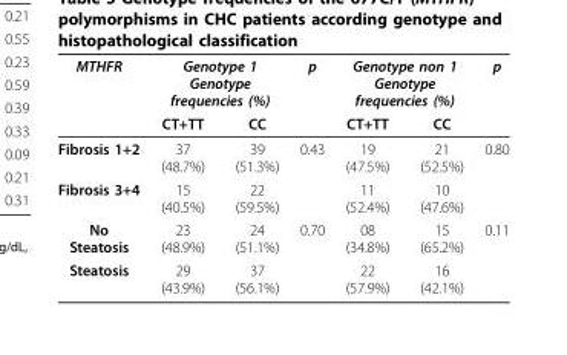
<table><thead><tr><td rowspan="2">MTHFR</td><td colspan="2">Genotype 1 Genotype frequencies (%)</td><td rowspan="2">p</td><td colspan="2">Genotype non 1 Genotype frequencies (%)</td><td rowspan="2">p</td></tr><tr><td>CT+TT</td><td>CC</td><td>CT+TT</td><td>CC</td></tr></thead><tbody><tr><td>Fibrosis 1+2</td><td>37 (48.7%)</td><td>39 (51.3%)</td><td>0.43</td><td>19 (47.5%)</td><td>21 (52.5%)</td><td>0.80</td></tr><tr><td>Fibrosis 3+4</td><td>15 (40.5%)</td><td>22 (59.5%)</td><td></td><td>11 (52.4%)</td><td>10 (47.6%)</td><td></td></tr><tr><td>No Steatosis</td><td>23 (48.9%)</td><td>24 (51.1%)</td><td>0.70</td><td>08 (34.8%)</td><td>15 (65.2%)</td><td>0.11</td></tr><tr><td>Steatosis</td><td>29 (43.9%)</td><td>37 (56.1%)</td><td></td><td>22 (57.9%)</td><td>16 (42.1%)</td><td></td></tr></tbody></table>